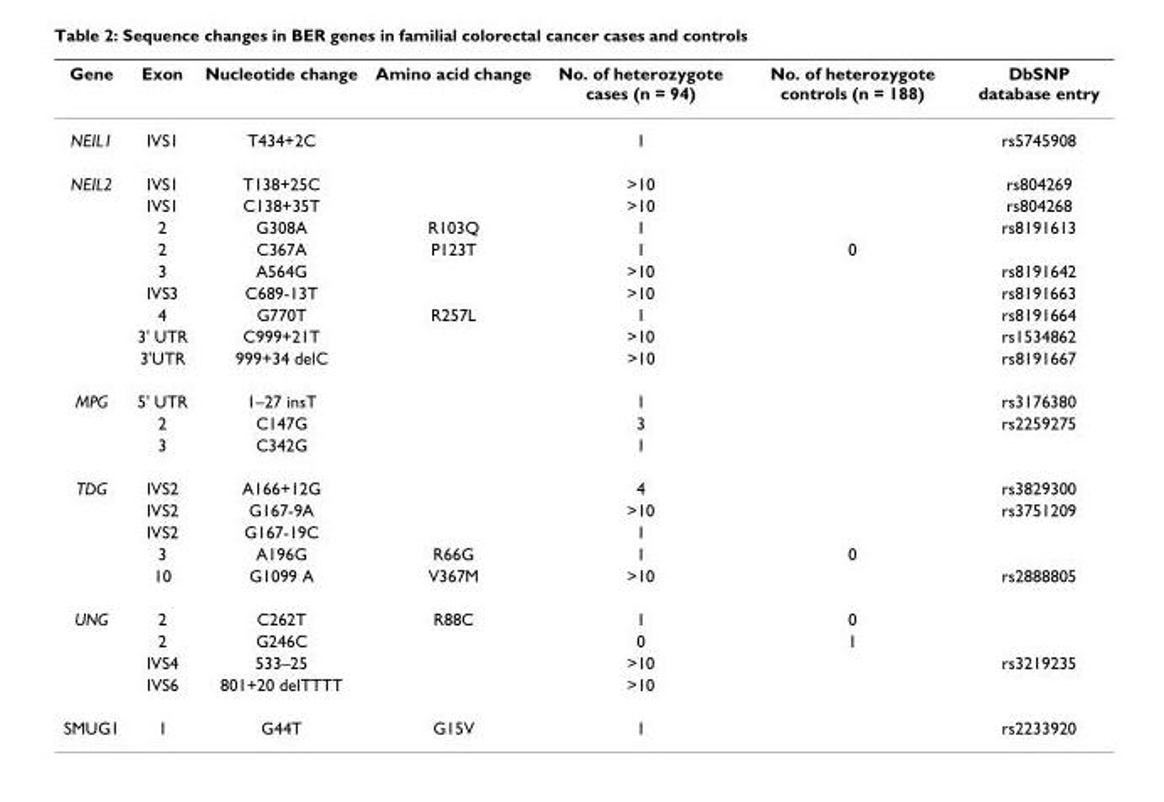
<table><thead><tr><td>Gene</td><td>Exon</td><td>Nucleotide change</td><td>Amino acid change</td><td>No. of heterozygote cases (n = 94)</td><td>No. of heterozygote controls (n = 188)</td><td>DbSNP database entry</td></tr></thead><tbody><tr><td>NEIL1</td><td>IVS1</td><td>T434+2C</td><td></td><td>1</td><td></td><td>rs5745908</td></tr><tr><td rowspan="9">NEIL2</td><td>IVS1</td><td>T138+25C</td><td></td><td>&gt;10</td><td></td><td>rs804269</td></tr><tr><td>IVS1</td><td>C138+35T</td><td></td><td>&gt;10</td><td></td><td>rs804268</td></tr><tr><td>2</td><td>G308A</td><td>R103Q</td><td>1</td><td></td><td>rs8191613</td></tr><tr><td>2</td><td>C367A</td><td>P123T</td><td>1</td><td>0</td><td></td></tr><tr><td>3</td><td>A564G</td><td></td><td>&gt;10</td><td></td><td>rs8191642</td></tr><tr><td>IVS3</td><td>C689-13T</td><td></td><td>&gt;10</td><td></td><td>rs8191663</td></tr><tr><td>4</td><td>G770T</td><td>R257L</td><td>1</td><td></td><td>rs8191664</td></tr><tr><td>3&#x27; UTR</td><td>C999+21T</td><td></td><td>&gt;10</td><td></td><td>rs1534862</td></tr><tr><td>3&#x27;UTR</td><td>999+34 delC</td><td></td><td>&gt;10</td><td></td><td>rs8191667</td></tr><tr><td rowspan="3">MPG</td><td>5&#x27; UTR</td><td>1–27 insT</td><td></td><td>1</td><td></td><td>rs3176380</td></tr><tr><td>2</td><td>C147G</td><td></td><td>3</td><td></td><td>rs2259275</td></tr><tr><td>3</td><td>C342G</td><td></td><td>1</td><td></td><td></td></tr><tr><td rowspan="5">TDG</td><td>IVS2</td><td>A166+12G</td><td></td><td>4</td><td></td><td>rs3829300</td></tr><tr><td>IVS2</td><td>G167-9A</td><td></td><td>&gt;10</td><td></td><td>rs3751209</td></tr><tr><td>IVS2</td><td>G167-19C</td><td></td><td>1</td><td></td><td></td></tr><tr><td>3</td><td>A196G</td><td>R66G</td><td>1</td><td>0</td><td></td></tr><tr><td>10</td><td>G1099 A</td><td>V367M</td><td>&gt;10</td><td></td><td>rs2888805</td></tr><tr><td rowspan="4">UNG</td><td>2</td><td>C262T</td><td>R88C</td><td>1</td><td>0</td><td></td></tr><tr><td>2</td><td>G246C</td><td></td><td>0</td><td>1</td><td></td></tr><tr><td>IVS4</td><td>533–25</td><td></td><td>&gt;10</td><td></td><td>rs3219235</td></tr><tr><td>IVS6</td><td>801+20 delTTTT</td><td></td><td>&gt;10</td><td></td><td></td></tr><tr><td>SMUG1</td><td>1</td><td>G44T</td><td>G15V</td><td>1</td><td></td><td>rs2233920</td></tr></tbody></table>